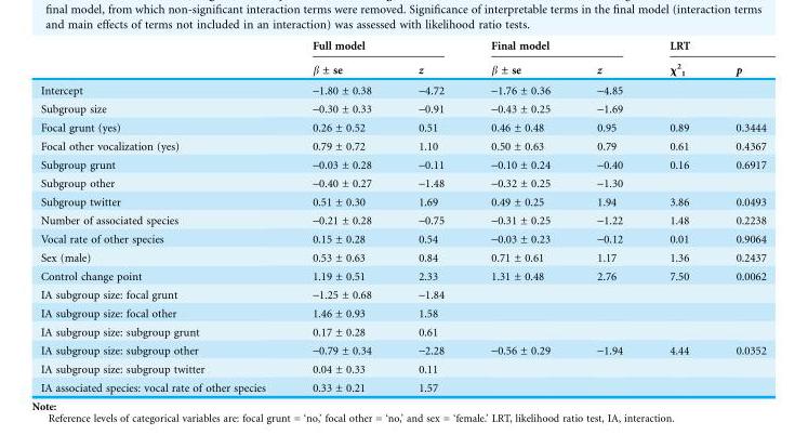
<table><thead><tr><td rowspan="2"></td><td colspan="2">Full model</td><td colspan="2">Final model</td><td colspan="2">LRT</td></tr><tr><td>β ± se</td><td>z</td><td>β ± se</td><td>z</td><td>χ<sup>2</sup> <sub>1</sub></td><td>p</td></tr></thead><tbody><tr><td>Intercept</td><td>-1.80 ± 0.38</td><td>-4.72</td><td>-1.76 ± 0.36</td><td>-4.85</td><td></td><td></td></tr><tr><td>Subgroup size</td><td>-0.30 ± 0.33</td><td>-0.91</td><td>-0.43 ± 0.25</td><td>-1.69</td><td></td><td></td></tr><tr><td>Focal grunt (yes)</td><td>0.26 ± 0.52</td><td>0.51</td><td>0.46 ± 0.48</td><td>0.95</td><td>0.89</td><td>0.3444</td></tr><tr><td>Focal other vocalization (yes)</td><td>0.79 ± 0.72</td><td>1.10</td><td>0.50 ± 0.63</td><td>0.79</td><td>0.61</td><td>0.4367</td></tr><tr><td>Subgroup grunt</td><td>-0.03 ± 0.28</td><td>-0.11</td><td>-0.10 ± 0.24</td><td>-0.40</td><td>0.16</td><td>0.6917</td></tr><tr><td>Subgroup other</td><td>-0.40 ± 0.27</td><td>-1.48</td><td>-0.32 ± 0.25</td><td>-1.30</td><td></td><td></td></tr><tr><td>Subgroup twitter</td><td>0.51 ± 0.30</td><td>1.69</td><td>0.49 ± 0.25</td><td>1.94</td><td>3.86</td><td>0.0493</td></tr><tr><td>Number of associated species</td><td>-0.21 ± 0.28</td><td>-0.75</td><td>-0.31 ± 0.25</td><td>-1.22</td><td>1.48</td><td>0.2238</td></tr><tr><td>Vocal rate of other species</td><td>0.15 ± 0.28</td><td>0.54</td><td>-0.03 ± 0.23</td><td>-0.12</td><td>0.01</td><td>0.9064</td></tr><tr><td>Sex (male)</td><td>0.53 ± 0.63</td><td>0.84</td><td>0.71 ± 0.61</td><td>1.17</td><td>1.36</td><td>0.2437</td></tr><tr><td>Control change point</td><td>1.19 ± 0.51</td><td>2.33</td><td>1.31 ± 0.48</td><td>2.76</td><td>7.50</td><td>0.0062</td></tr><tr><td>IA subgroup size: focal grunt</td><td>-1.25 ± 0.68</td><td>-1.84</td><td></td><td></td><td></td><td></td></tr><tr><td>IA subgroup size: focal other</td><td>1.46 ± 0.93</td><td>1.58</td><td></td><td></td><td></td><td></td></tr><tr><td>IA subgroup size: subgroup grunt</td><td>0.17 ± 0.28</td><td>0.61</td><td></td><td></td><td></td><td></td></tr><tr><td>IA subgroup size: subgroup other</td><td>-0.79 ± 0.34</td><td>-2.28</td><td>-0.56 ± 0.29</td><td>-1.94</td><td>4.44</td><td>0.0352</td></tr><tr><td>IA subgroup size: subgroup twitter</td><td>0.04 ± 0.33</td><td>0.11</td><td></td><td></td><td></td><td></td></tr><tr><td>IA associated species: vocal rate of other species</td><td>0.33 ± 0.21</td><td>1.57</td><td></td><td></td><td></td><td></td></tr></tbody></table>